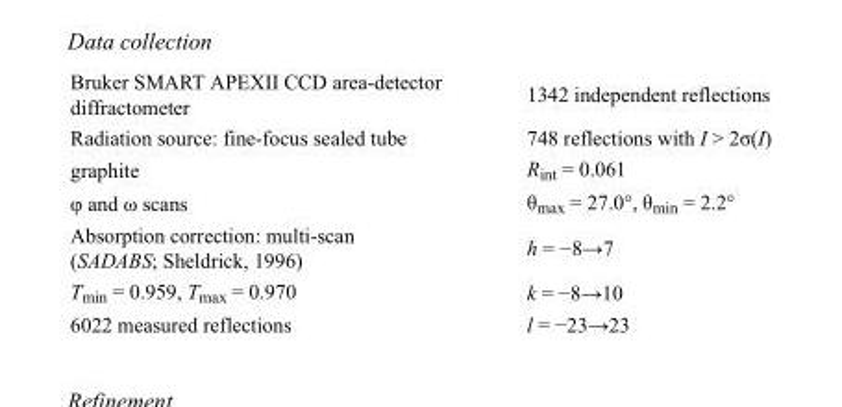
<table><tbody><tr><td>Bruker SMART APEXII CCD area-detector diffractometer</td><td>1342 independent reflections</td></tr><tr><td>Radiation source: fine-focus sealed tube</td><td>748 reflections with I &gt; 2σ(I)</td></tr><tr><td>graphite</td><td>R<sub>int</sub> = 0.061</td></tr><tr><td>φ and ω scans</td><td>θ<sub>max</sub> = 27.0°, θ<sub>min</sub> = 2.2°</td></tr><tr><td>Absorption correction: multi-scan (SADABS; Sheldrick, 1996)</td><td>h = −8→7</td></tr><tr><td>T<sub>min</sub> = 0.959, T<sub>max</sub> = 0.970</td><td>k = −8→10</td></tr><tr><td>6022 measured reflections</td><td>l = −23→23</td></tr></tbody></table>